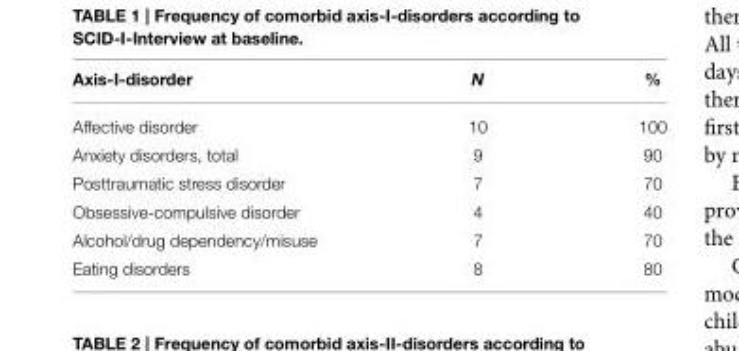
<table><thead><tr><td>Axis-I-disorder</td><td>N</td><td>%</td></tr></thead><tbody><tr><td>Affective disorder</td><td>10</td><td>100</td></tr><tr><td>Anxiety disorders, total</td><td>9</td><td>90</td></tr><tr><td>Posttraumatic stress disorder</td><td>7</td><td>70</td></tr><tr><td>Obsessive-compulsive disorder</td><td>4</td><td>40</td></tr><tr><td>Alcohol/drug dependency/misuse</td><td>7</td><td>70</td></tr><tr><td>Eating disorders</td><td>8</td><td>80</td></tr></tbody></table>